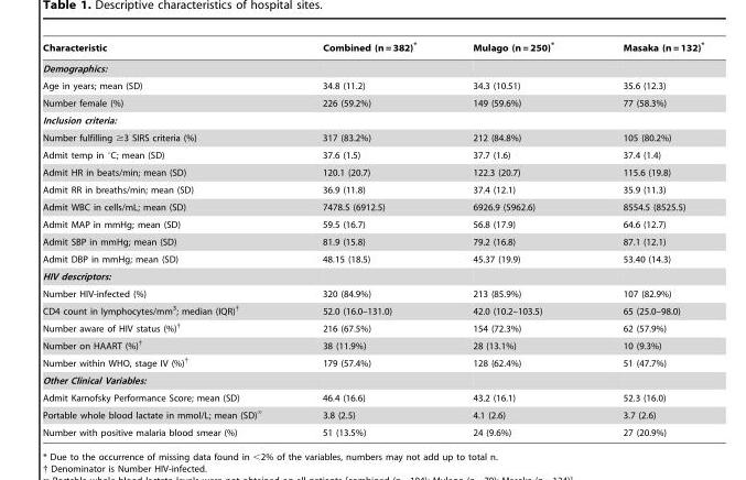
<table><thead><tr><td>Characteristic</td><td>Combined (n = 382)*</td><td>Mulago (n = 250)*</td><td>Masaka (n = 132)*</td></tr></thead><tbody><tr><td colspan="4">Demographics:</td></tr><tr><td>Age in years; mean (SD)</td><td>34.8 (11.2)</td><td>34.3 (10.51)</td><td>35.6 (12.3)</td></tr><tr><td>Number female (%)</td><td>226 (59.2%)</td><td>149 (59.6%)</td><td>77 (58.3%)</td></tr><tr><td colspan="4">Inclusion criteria:</td></tr><tr><td>Number fulfilling ≥3 SIRS criteria (%)</td><td>317 (83.2%)</td><td>212 (84.8%)</td><td>105 (80.2%)</td></tr><tr><td>Admit temp in °C; mean (SD)</td><td>37.6 (1.5)</td><td>37.7 (1.6)</td><td>37.4 (1.4)</td></tr><tr><td>Admit HR in beats/min; mean (SD)</td><td>120.1 (20.7)</td><td>122.3 (20.7)</td><td>115.6 (19.8)</td></tr><tr><td>Admit RR in breaths/min; mean (SD)</td><td>36.9 (11.8)</td><td>37.4 (12.1)</td><td>35.9 (11.3)</td></tr><tr><td>Admit WBC in cells/mL; mean (SD)</td><td>7478.5 (6912.5)</td><td>6926.9 (5962.6)</td><td>8554.5 (8525.5)</td></tr><tr><td>Admit MAP in mmHg; mean (SD)</td><td>59.5 (16.7)</td><td>56.8 (17.9)</td><td>64.6 (12.7)</td></tr><tr><td>Admit SBP in mmHg; mean (SD)</td><td>81.9 (15.8)</td><td>79.2 (16.8)</td><td>87.1 (12.1)</td></tr><tr><td>Admit DBP in mmHg; mean (SD)</td><td>48.15 (18.5)</td><td>45.37 (19.9)</td><td>53.40 (14.3)</td></tr><tr><td colspan="4">HIV descriptors:</td></tr><tr><td>Number HIV-infected (%)</td><td>320 (84.9%)</td><td>213 (85.9%)</td><td>107 (82.9%)</td></tr><tr><td>CD4 count in lymphocytes/mm<sup>3</sup>; median (IQR)†</td><td>52.0 (16.0–131.0)</td><td>42.0 (10.2–103.5)</td><td>65 (25.0–98.0)</td></tr><tr><td>Number aware of HIV status (%)†</td><td>216 (67.5%)</td><td>154 (72.3%)</td><td>62 (57.9%)</td></tr><tr><td>Number on HAART (%)†</td><td>38 (11.9%)</td><td>28 (13.1%)</td><td>10 (9.3%)</td></tr><tr><td>Number within WHO, stage IV (%)†</td><td>179 (57.4%)</td><td>128 (62.4%)</td><td>51 (47.7%)</td></tr><tr><td colspan="4">Other Clinical Variables:</td></tr><tr><td>Admit Karnofsky Performance Score; mean (SD)</td><td>46.4 (16.6)</td><td>43.2 (16.1)</td><td>52.3 (16.0)</td></tr><tr><td>Portable whole blood lactate in mmol/L; mean (SD)‘</td><td>3.8 (2.5)</td><td>4.1 (2.6)</td><td>3.7 (2.6)</td></tr><tr><td>Number with positive malaria blood smear (%)</td><td>51 (13.5%)</td><td>24 (9.6%)</td><td>27 (20.9%)</td></tr></tbody></table>